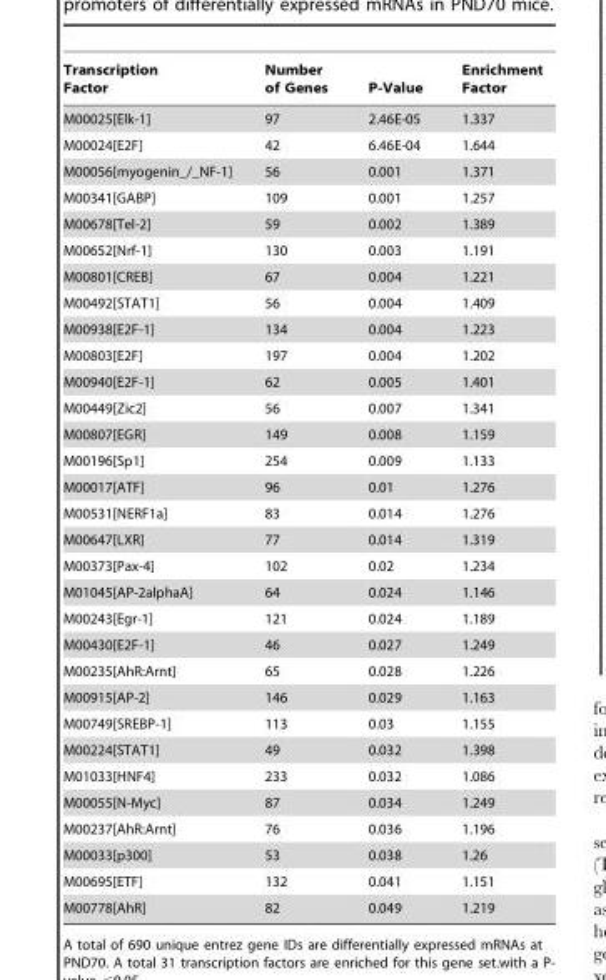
<table><thead><tr><td>Transcription Factor</td><td>Number of Genes</td><td>P-Value</td><td>Enrichment Factor</td></tr></thead><tbody><tr><td>M00025[Elk-1]</td><td>97</td><td>2.46E-05</td><td>1.337</td></tr><tr><td>M00024[E2F]</td><td>42</td><td>6.46E-04</td><td>1.644</td></tr><tr><td>M00056[myogenin_/_NF-1]</td><td>56</td><td>0.001</td><td>1.371</td></tr><tr><td>M00341[GABP]</td><td>109</td><td>0.001</td><td>1.257</td></tr><tr><td>M00678[Tel-2]</td><td>59</td><td>0.002</td><td>1.389</td></tr><tr><td>M00652[Nrf-1]</td><td>130</td><td>0.003</td><td>1.191</td></tr><tr><td>M00801[CREB]</td><td>67</td><td>0.004</td><td>1.221</td></tr><tr><td>M00492[STAT1]</td><td>56</td><td>0.004</td><td>1.409</td></tr><tr><td>M00938[E2F-1]</td><td>134</td><td>0.004</td><td>1.223</td></tr><tr><td>M00803[E2F]</td><td>197</td><td>0.004</td><td>1.202</td></tr><tr><td>M00940[E2F-1]</td><td>62</td><td>0.005</td><td>1.401</td></tr><tr><td>M00449[Zic2]</td><td>56</td><td>0.007</td><td>1.341</td></tr><tr><td>M00807[EGR]</td><td>149</td><td>0.008</td><td>1.159</td></tr><tr><td>M00196[Sp1]</td><td>254</td><td>0.009</td><td>1.133</td></tr><tr><td>M00017[ATF]</td><td>96</td><td>0.01</td><td>1.276</td></tr><tr><td>M00531[NERF1a]</td><td>83</td><td>0.014</td><td>1.276</td></tr><tr><td>M00647[LXR]</td><td>77</td><td>0.014</td><td>1.319</td></tr><tr><td>M00373[Pax-4]</td><td>102</td><td>0.02</td><td>1.234</td></tr><tr><td>M01045[AP-2alphaA]</td><td>64</td><td>0.024</td><td>1.146</td></tr><tr><td>M00243[Egr-1]</td><td>121</td><td>0.024</td><td>1.189</td></tr><tr><td>M00430[E2F-1]</td><td>46</td><td>0.027</td><td>1.249</td></tr><tr><td>M00235[AhR:Arnt]</td><td>65</td><td>0.028</td><td>1.226</td></tr><tr><td>M00915[AP-2]</td><td>146</td><td>0.029</td><td>1.163</td></tr><tr><td>M00749[SREBP-1]</td><td>113</td><td>0.03</td><td>1.155</td></tr><tr><td>M00224[STAT1]</td><td>49</td><td>0.032</td><td>1.398</td></tr><tr><td>M01033[HNF4]</td><td>233</td><td>0.032</td><td>1.086</td></tr><tr><td>M00055[N-Myc]</td><td>87</td><td>0.034</td><td>1.249</td></tr><tr><td>M00237[AhR:Arnt]</td><td>76</td><td>0.036</td><td>1.196</td></tr><tr><td>M00033[p300]</td><td>53</td><td>0.038</td><td>1.26</td></tr><tr><td>M00695[ETF]</td><td>132</td><td>0.041</td><td>1.151</td></tr><tr><td>M00778[AhR]</td><td>82</td><td>0.049</td><td>1.219</td></tr></tbody></table>